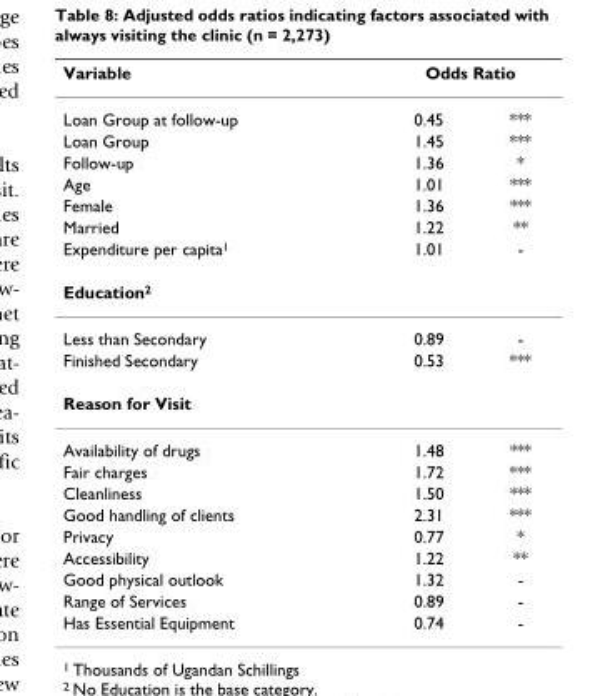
<table><thead><tr><td rowspan="2">Variable Loan Group at follow-up</td><td colspan="2">Odds Ratio</td></tr><tr><td>0.45</td><td>***</td></tr></thead><tbody><tr><td>Loan Group</td><td>1.45</td><td>***</td></tr><tr><td>Follow-up</td><td>1.36</td><td>*</td></tr><tr><td>Age</td><td>1.01</td><td>***</td></tr><tr><td>Female</td><td>1.36</td><td>***</td></tr><tr><td>Married</td><td>1.22</td><td>**</td></tr><tr><td>Expenditure per capita1</td><td>1.01</td><td>-</td></tr><tr><td colspan="3">Education2</td></tr><tr><td>Less than Secondary</td><td>0.89</td><td>-</td></tr><tr><td>Finished Secondary</td><td>0.53</td><td>***</td></tr><tr><td colspan="3">Reason for Visit</td></tr><tr><td>Availability of drugs</td><td>1.48</td><td>***</td></tr><tr><td>Fair charges</td><td>1.72</td><td>***</td></tr><tr><td>Cleanliness</td><td>1.50</td><td>***</td></tr><tr><td>Good handling of clients</td><td>2.31</td><td>***</td></tr><tr><td>Privacy</td><td>0.77</td><td>*</td></tr><tr><td>Accessibility</td><td>1.22</td><td>**</td></tr><tr><td>Good physical outlook</td><td>1.32</td><td>-</td></tr><tr><td>Range of Services</td><td>0.89</td><td>-</td></tr><tr><td>Has Essential Equipment</td><td>0.74</td><td>-</td></tr></tbody></table>